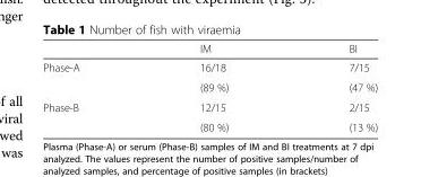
<table><thead><tr><td></td><td>IM</td><td>BI</td></tr></thead><tbody><tr><td rowspan="2">Phase-A</td><td>16/18</td><td>7/15</td></tr><tr><td>(89 %)</td><td>(47 %)</td></tr><tr><td rowspan="2">Phase-B</td><td>12/15</td><td>2/15</td></tr><tr><td>(80 %)</td><td>(13 %)</td></tr></tbody></table>